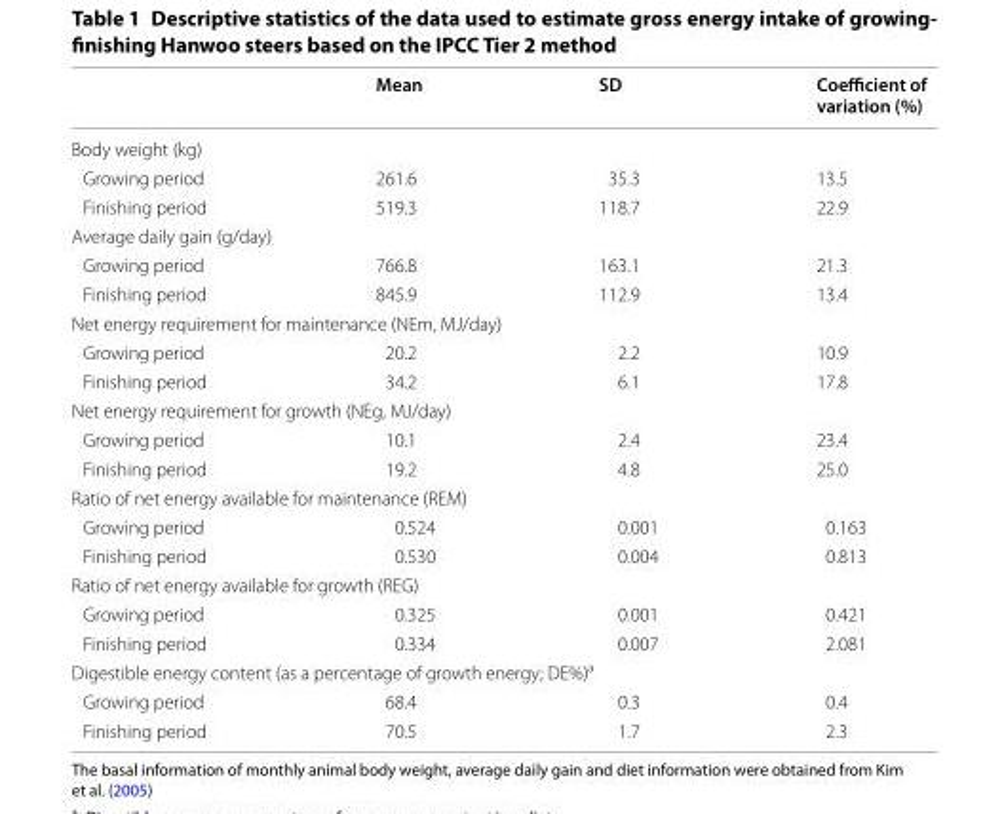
<table><thead><tr><td></td><td>Mean</td><td>SD</td><td>Coefficient of variation (%)</td></tr></thead><tbody><tr><td colspan="4">Body weight (kg)</td></tr><tr><td>Growing period</td><td>261.6</td><td>35.3</td><td>13.5</td></tr><tr><td>Finishing period</td><td>519.3</td><td>118.7</td><td>22.9</td></tr><tr><td colspan="4">Average daily gain (g/day)</td></tr><tr><td>Growing period</td><td>766.8</td><td>163.1</td><td>21.3</td></tr><tr><td>Finishing period</td><td>845.9</td><td>112.9</td><td>13.4</td></tr><tr><td colspan="4">Net energy requirement for maintenance (NEm, MJ/day)</td></tr><tr><td>Growing period</td><td>20.2</td><td>2.2</td><td>10.9</td></tr><tr><td>Finishing period</td><td>34.2</td><td>6.1</td><td>17.8</td></tr><tr><td colspan="4">Net energy requirement for growth (NEg, MJ/day)</td></tr><tr><td>Growing period</td><td>10.1</td><td>2.4</td><td>23.4</td></tr><tr><td>Finishing period</td><td>19.2</td><td>4.8</td><td>25.0</td></tr><tr><td colspan="4">Ratio of net energy available for maintenance (REM)</td></tr><tr><td>Growing period</td><td>0.524</td><td>0.001</td><td>0.163</td></tr><tr><td>Finishing period</td><td>0.530</td><td>0.004</td><td>0.813</td></tr><tr><td colspan="4">Ratio of net energy available for growth (REG)</td></tr><tr><td>Growing period</td><td>0.325</td><td>0.001</td><td>0.421</td></tr><tr><td>Finishing period</td><td>0.334</td><td>0.007</td><td>2.081</td></tr><tr><td colspan="4">Digestible energy content (as a percentage of growth energy; DE%)<sup>a</sup></td></tr><tr><td>Growing period</td><td>68.4</td><td>0.3</td><td>0.4</td></tr><tr><td>Finishing period</td><td>70.5</td><td>1.7</td><td>2.3</td></tr></tbody></table>